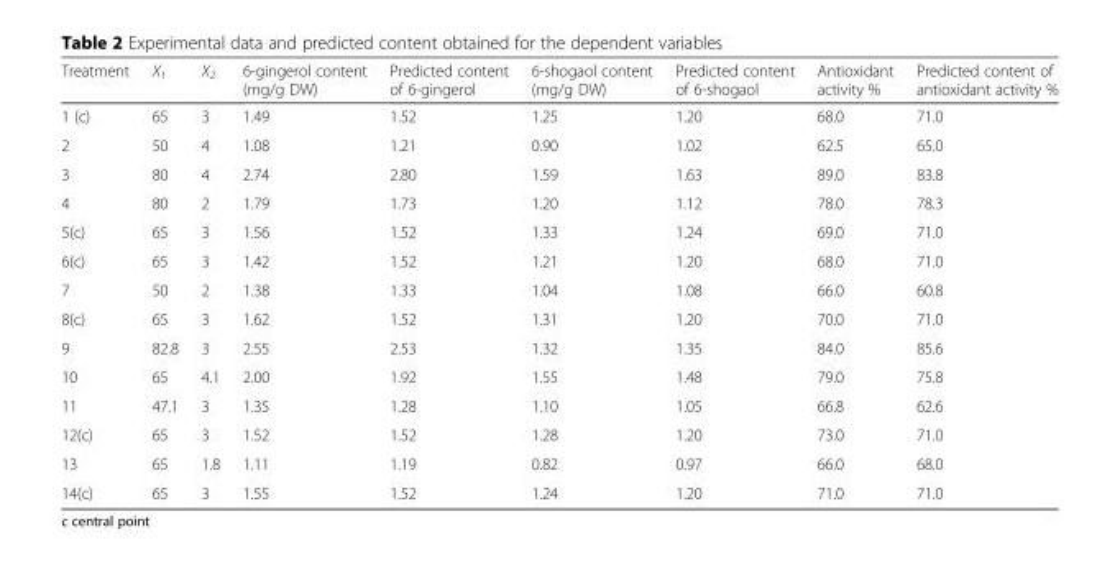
<table><thead><tr><td>Treatment</td><td>X<sub>1</sub></td><td>X<sub>2</sub></td><td>6-gingerol content (mg/g DW)</td><td>Predicted content of 6-gingerol</td><td>6-shogaol content (mg/g DW)</td><td>Predicted content of 6-shogaol</td><td>Antioxidant activity %</td><td>Predicted content of antioxidant activity %</td></tr></thead><tbody><tr><td>1 (c)</td><td>65</td><td>3</td><td>1.49</td><td>1.52</td><td>1.25</td><td>1.20</td><td>68.0</td><td>71.0</td></tr><tr><td>2</td><td>50</td><td>4</td><td>1.08</td><td>1.21</td><td>0.90</td><td>1.02</td><td>62.5</td><td>65.0</td></tr><tr><td>3</td><td>80</td><td>4</td><td>2.74</td><td>2.80</td><td>1.59</td><td>1.63</td><td>89.0</td><td>83.8</td></tr><tr><td>4</td><td>80</td><td>2</td><td>1.79</td><td>1.73</td><td>1.20</td><td>1.12</td><td>78.0</td><td>78.3</td></tr><tr><td>5(c)</td><td>65</td><td>3</td><td>1.56</td><td>1.52</td><td>1.33</td><td>1.24</td><td>69.0</td><td>71.0</td></tr><tr><td>6(c)</td><td>65</td><td>3</td><td>1.42</td><td>1.52</td><td>1.21</td><td>1.20</td><td>68.0</td><td>71.0</td></tr><tr><td>7</td><td>50</td><td>2</td><td>1.38</td><td>1.33</td><td>1.04</td><td>1.08</td><td>66.0</td><td>60.8</td></tr><tr><td>8(c)</td><td>65</td><td>3</td><td>1.62</td><td>1.52</td><td>1.31</td><td>1.20</td><td>70.0</td><td>71.0</td></tr><tr><td>9</td><td>82.8</td><td>3</td><td>2.55</td><td>2.53</td><td>1.32</td><td>1.35</td><td>84.0</td><td>85.6</td></tr><tr><td>10</td><td>65</td><td>4.1</td><td>2.00</td><td>1.92</td><td>1.55</td><td>1.48</td><td>79.0</td><td>75.8</td></tr><tr><td>11</td><td>47.1</td><td>3</td><td>1.35</td><td>1.28</td><td>1.10</td><td>1.05</td><td>66.8</td><td>62.6</td></tr><tr><td>12(c)</td><td>65</td><td>3</td><td>1.52</td><td>1.52</td><td>1.28</td><td>1.20</td><td>73.0</td><td>71.0</td></tr><tr><td>13</td><td>65</td><td>1.8</td><td>1.11</td><td>1.19</td><td>0.82</td><td>0.97</td><td>66.0</td><td>68.0</td></tr><tr><td>14(c)</td><td>65</td><td>3</td><td>1.55</td><td>1.52</td><td>1.24</td><td>1.20</td><td>71.0</td><td>71.0</td></tr></tbody></table>